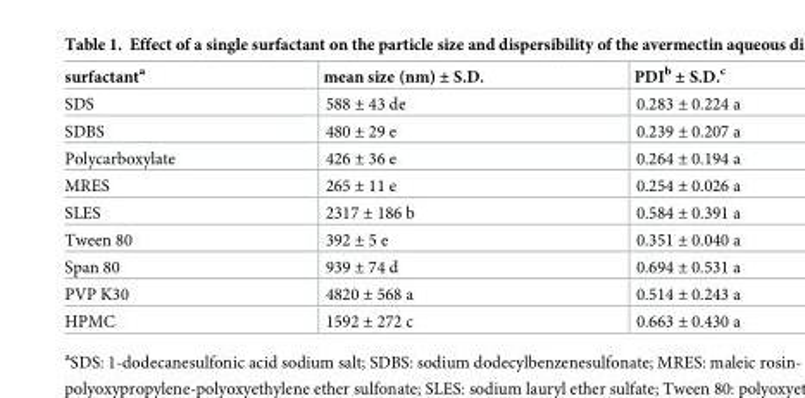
<table><thead><tr><td>surfactant<sup>a</sup></td><td>mean size (nm) ± S.D.</td><td>PDI<sup>b</sup> ± S.D.<sup>c</sup></td></tr></thead><tbody><tr><td>SDS</td><td>588 ± 43 de</td><td>0.283 ± 0.224 a</td></tr><tr><td>SDBS</td><td>480 ± 29 e</td><td>0.239 ± 0.207 a</td></tr><tr><td>Polycarboxylate</td><td>426 ± 36 e</td><td>0.264 ± 0.194 a</td></tr><tr><td>MRES</td><td>265 ± 11 e</td><td>0.254 ± 0.026 a</td></tr><tr><td>SLES</td><td>2317 ± 186 b</td><td>0.584 ± 0.391 a</td></tr><tr><td>Tween 80</td><td>392 ± 5 e</td><td>0.351 ± 0.040 a</td></tr><tr><td>Span 80</td><td>939 ± 74 d</td><td>0.694 ± 0.531 a</td></tr><tr><td>PVP K30</td><td>4820 ± 568 a</td><td>0.514 ± 0.243 a</td></tr><tr><td>HPMC</td><td>1592 ± 272 c</td><td>0.663 ± 0.430 a</td></tr></tbody></table>